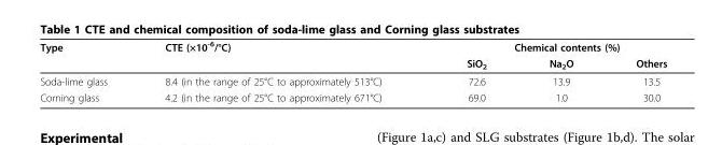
<table><thead><tr><td rowspan="2">Type</td><td rowspan="2">CTE (×10<sup>-6</sup>/°C)</td><td colspan="3">Chemical contents (%)</td></tr><tr><td>SiO<sub>2</sub></td><td>Na<sub>2</sub>O</td><td>Others</td></tr></thead><tbody><tr><td>Soda-lime glass</td><td>8.4 (in the range of 25°C to approximately 513°C)</td><td>72.6</td><td>13.9</td><td>13.5</td></tr><tr><td>Corning glass</td><td>4.2 (in the range of 25°C to approximately 671°C)</td><td>69.0</td><td>1.0</td><td>30.0</td></tr></tbody></table>